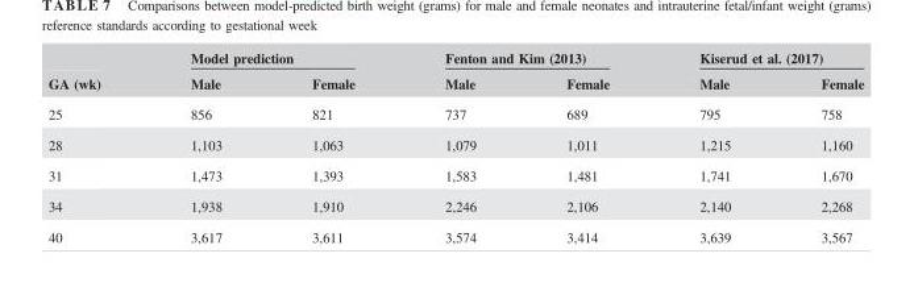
<table><thead><tr><td rowspan="2">GA (wk)</td><td colspan="2">Model prediction</td><td colspan="2">Fenton and Kim (2013)</td><td colspan="2">Kiserud et al. (2017)</td></tr><tr><td>Male</td><td>Female</td><td>Male</td><td>Female</td><td>Male</td><td>Female</td></tr></thead><tbody><tr><td>25</td><td>856</td><td>821</td><td>737</td><td>689</td><td>795</td><td>758</td></tr><tr><td>28</td><td>1,103</td><td>1,063</td><td>1,079</td><td>1,011</td><td>1,215</td><td>1,160</td></tr><tr><td>31</td><td>1,473</td><td>1,393</td><td>1,583</td><td>1,481</td><td>1,741</td><td>1,670</td></tr><tr><td>34</td><td>1,938</td><td>1,910</td><td>2,246</td><td>2,106</td><td>2,140</td><td>2,268</td></tr><tr><td>40</td><td>3,617</td><td>3,611</td><td>3,574</td><td>3,414</td><td>3,639</td><td>3,567</td></tr></tbody></table>